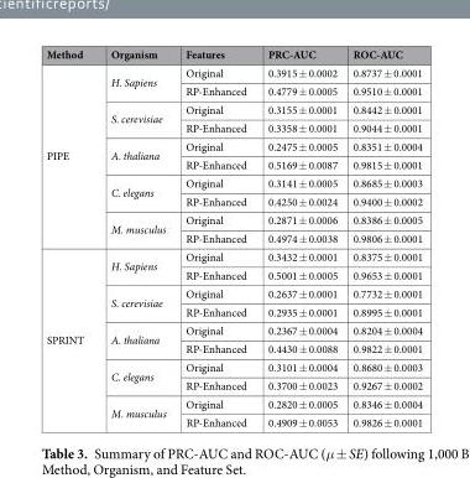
<table><thead><tr><td>Method</td><td>Organism</td><td>Features</td><td>PRC-AUC</td><td>ROC-AUC</td></tr></thead><tbody><tr><td rowspan="10">PIPE</td><td rowspan="2">H. Sapiens</td><td>Original</td><td>0.3915 ± 0.0002</td><td>0.8737 ± 0.0001</td></tr><tr><td>RP-Enhanced</td><td>0.4779 ± 0.0005</td><td>0.9510 ± 0.0001</td></tr><tr><td rowspan="2">S. cerevisiae</td><td>Original</td><td>0.3155 ± 0.0001</td><td>0.8442 ± 0.0001</td></tr><tr><td>RP-Enhanced</td><td>0.3358 ± 0.0001</td><td>0.9044 ± 0.0001</td></tr><tr><td rowspan="2">A. thaliana</td><td>Original</td><td>0.2475 ± 0.0005</td><td>0.8351 ± 0.0004</td></tr><tr><td>RP-Enhanced</td><td>0.5169 ± 0.0087</td><td>0.9815 ± 0.0001</td></tr><tr><td rowspan="2">C. elegans</td><td>Original</td><td>0.3141 ± 0.0005</td><td>0.8685 ± 0.0003</td></tr><tr><td>RP-Enhanced</td><td>0.4250 ± 0.0024</td><td>0.9400 ± 0.0002</td></tr><tr><td rowspan="2">M. musculus</td><td>Original</td><td>0.2871 ± 0.0006</td><td>0.8386 ± 0.0005</td></tr><tr><td>RP-Enhanced</td><td>0.4974 ± 0.0038</td><td>0.9806 ± 0.0001</td></tr><tr><td rowspan="10">SPRINT</td><td rowspan="2">H. Sapiens</td><td>Original</td><td>0.3432 ± 0.0001</td><td>0.8375 ± 0.0001</td></tr><tr><td>RP-Enhanced</td><td>0.5001 ± 0.0005</td><td>0.9653 ± 0.0001</td></tr><tr><td rowspan="2">S. cerevisiae</td><td>Original</td><td>0.2637 ± 0.0001</td><td>0.7732 ± 0.0001</td></tr><tr><td>RP-Enhanced</td><td>0.2935 ± 0.0001</td><td>0.8995 ± 0.0001</td></tr><tr><td rowspan="2">A. thaliana</td><td>Original</td><td>0.2367 ± 0.0004</td><td>0.8204 ± 0.0004</td></tr><tr><td>RP-Enhanced</td><td>0.4430 ± 0.0088</td><td>0.9822 ± 0.0001</td></tr><tr><td rowspan="2">C. elegans</td><td>Original</td><td>0.3101 ± 0.0004</td><td>0.8680 ± 0.0003</td></tr><tr><td>RP-Enhanced</td><td>0.3700 ± 0.0023</td><td>0.9267 ± 0.0002</td></tr><tr><td rowspan="2">M. musculus</td><td>Original</td><td>0.2820 ± 0.0005</td><td>0.8346 ± 0.0004</td></tr><tr><td>RP-Enhanced</td><td>0.4909 ± 0.0053</td><td>0.9826 ± 0.0001</td></tr></tbody></table>